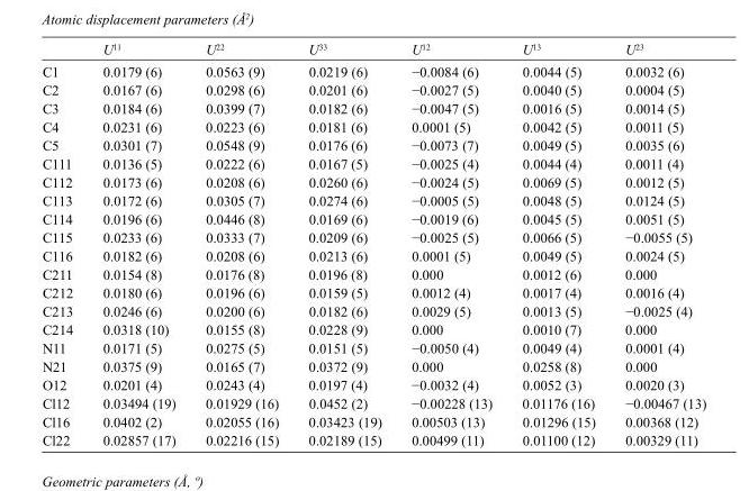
<table><thead><tr><td></td><td>U<sup>11</sup></td><td>U<sup>22</sup></td><td>U<sup>33</sup></td><td>U<sup>12</sup></td><td>U<sup>13</sup></td><td>U<sup>23</sup></td></tr></thead><tbody><tr><td>C1</td><td>0.0179 (6)</td><td>0.0563 (9)</td><td>0.0219 (6)</td><td>−0.0084 (6)</td><td>0.0044 (5)</td><td>0.0032 (6)</td></tr><tr><td>C2</td><td>0.0167 (6)</td><td>0.0298 (6)</td><td>0.0201 (6)</td><td>−0.0027 (5)</td><td>0.0040 (5)</td><td>0.0004 (5)</td></tr><tr><td>C3</td><td>0.0184 (6)</td><td>0.0399 (7)</td><td>0.0182 (6)</td><td>−0.0047 (5)</td><td>0.0016 (5)</td><td>0.0014 (5)</td></tr><tr><td>C4</td><td>0.0231 (6)</td><td>0.0223 (6)</td><td>0.0181 (6)</td><td>0.0001 (5)</td><td>0.0042 (5)</td><td>0.0011 (5)</td></tr><tr><td>C5</td><td>0.0301 (7)</td><td>0.0548 (9)</td><td>0.0176 (6)</td><td>−0.0073 (7)</td><td>0.0049 (5)</td><td>0.0035 (6)</td></tr><tr><td>C111</td><td>0.0136 (5)</td><td>0.0222 (6)</td><td>0.0167 (5)</td><td>−0.0025 (4)</td><td>0.0044 (4)</td><td>0.0011 (4)</td></tr><tr><td>C112</td><td>0.0173 (6)</td><td>0.0208 (6)</td><td>0.0260 (6)</td><td>−0.0024 (5)</td><td>0.0069 (5)</td><td>0.0012 (5)</td></tr><tr><td>C113</td><td>0.0172 (6)</td><td>0.0305 (7)</td><td>0.0274 (6)</td><td>−0.0005 (5)</td><td>0.0048 (5)</td><td>0.0124 (5)</td></tr><tr><td>C114</td><td>0.0196 (6)</td><td>0.0446 (8)</td><td>0.0169 (6)</td><td>−0.0019 (6)</td><td>0.0045 (5)</td><td>0.0051 (5)</td></tr><tr><td>C115</td><td>0.0233 (6)</td><td>0.0333 (7)</td><td>0.0209 (6)</td><td>−0.0025 (5)</td><td>0.0066 (5)</td><td>−0.0055 (5)</td></tr><tr><td>C116</td><td>0.0182 (6)</td><td>0.0208 (6)</td><td>0.0213 (6)</td><td>0.0001 (5)</td><td>0.0049 (5)</td><td>0.0024 (5)</td></tr><tr><td>C211</td><td>0.0154 (8)</td><td>0.0176 (8)</td><td>0.0196 (8)</td><td>0.000</td><td>0.0012 (6)</td><td>0.000</td></tr><tr><td>C212</td><td>0.0180 (6)</td><td>0.0196 (6)</td><td>0.0159 (5)</td><td>0.0012 (4)</td><td>0.0017 (4)</td><td>0.0016 (4)</td></tr><tr><td>C213</td><td>0.0246 (6)</td><td>0.0200 (6)</td><td>0.0182 (6)</td><td>0.0029 (5)</td><td>0.0013 (5)</td><td>−0.0025 (4)</td></tr><tr><td>C214</td><td>0.0318 (10)</td><td>0.0155 (8)</td><td>0.0228 (9)</td><td>0.000</td><td>0.0010 (7)</td><td>0.000</td></tr><tr><td>N11</td><td>0.0171 (5)</td><td>0.0275 (5)</td><td>0.0151 (5)</td><td>−0.0050 (4)</td><td>0.0049 (4)</td><td>0.0001 (4)</td></tr><tr><td>N21</td><td>0.0375 (9)</td><td>0.0165 (7)</td><td>0.0372 (9)</td><td>0.000</td><td>0.0258 (8)</td><td>0.000</td></tr><tr><td>O12</td><td>0.0201 (4)</td><td>0.0243 (4)</td><td>0.0197 (4)</td><td>−0.0032 (4)</td><td>0.0052 (3)</td><td>0.0020 (3)</td></tr><tr><td>Cl12</td><td>0.03494 (19)</td><td>0.01929 (16)</td><td>0.0452 (2)</td><td>−0.00228 (13)</td><td>0.01176 (16)</td><td>−0.00467 (13)</td></tr><tr><td>Cl16</td><td>0.0402 (2)</td><td>0.02055 (16)</td><td>0.03423 (19)</td><td>0.00503 (13)</td><td>0.01296 (15)</td><td>0.00368 (12)</td></tr><tr><td>Cl22</td><td>0.02857 (17)</td><td>0.02216 (15)</td><td>0.02189 (15)</td><td>0.00499 (11)</td><td>0.01100 (12)</td><td>0.00329 (11)</td></tr></tbody></table>